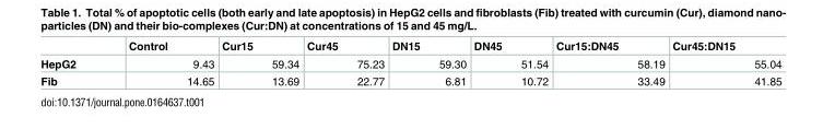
<table><thead><tr><td></td><td>Control</td><td>Cur15</td><td>Cur45</td><td>DN15</td><td>DN45</td><td>Cur15:DN45</td><td>Cur45:DN15</td></tr></thead><tbody><tr><td>HepG2</td><td>9.43</td><td>59.34</td><td>75.23</td><td>59.30</td><td>51.54</td><td>58.19</td><td>55.04</td></tr><tr><td>Fib</td><td>14.65</td><td>13.69</td><td>22.77</td><td>6.81</td><td>10.72</td><td>33.49</td><td>41.85</td></tr></tbody></table>